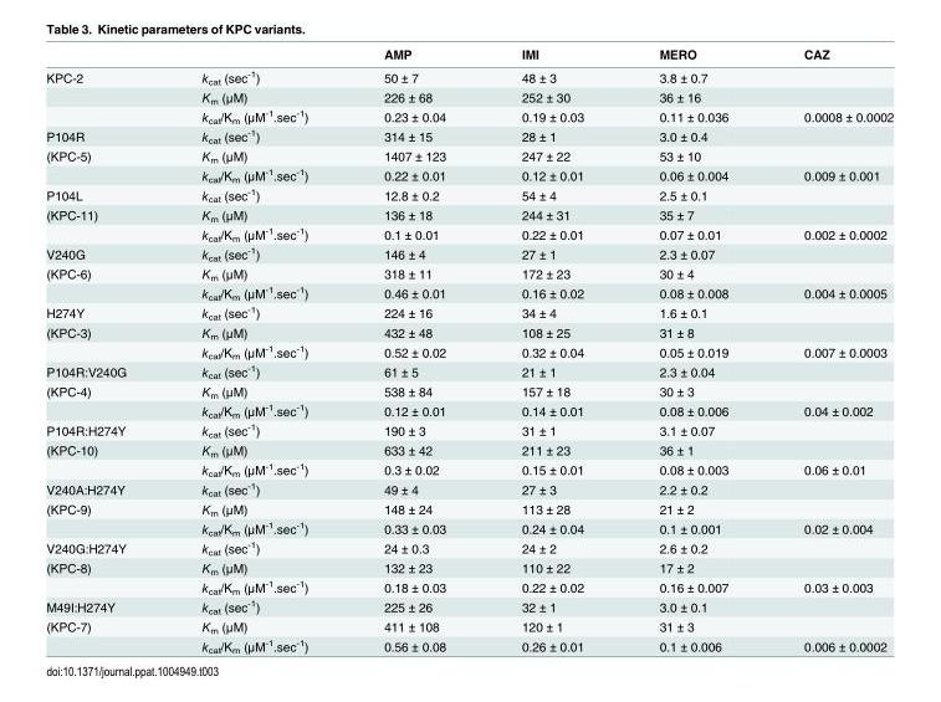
<table><thead><tr><td></td><td></td><td>AMP</td><td>IMI</td><td>MERO</td><td>CAZ</td></tr></thead><tbody><tr><td rowspan="3">KPC-2</td><td>k<sub>cat</sub> (sec<sup>-1</sup>)</td><td>50 ± 7</td><td>48 ± 3</td><td>3.8 ± 0.7</td><td></td></tr><tr><td>K<sub>m</sub> (μM)</td><td>226 ± 68</td><td>252 ± 30</td><td>36 ± 16</td><td></td></tr><tr><td>k<sub>cat</sub>/K<sub>m</sub> (μM<sup>-1</sup>.sec<sup>-1</sup>)</td><td>0.23 ± 0.04</td><td>0.19 ± 0.03</td><td>0.11 ± 0.036</td><td>0.0008 ± 0.0002</td></tr><tr><td>P104R</td><td>k<sub>cat</sub> (sec<sup>-1</sup>)</td><td>314 ± 15</td><td>28 ± 1</td><td>3.0 ± 0.4</td><td></td></tr><tr><td rowspan="2">(KPC-5)</td><td>K<sub>m</sub> (μM)</td><td>1407 ± 123</td><td>247 ± 22</td><td>53 ± 10</td><td></td></tr><tr><td>k<sub>cat</sub>/K<sub>m</sub> (μM<sup>-1</sup>.sec<sup>-1</sup>)</td><td>0.22 ± 0.01</td><td>0.12 ± 0.01</td><td>0.06 ± 0.004</td><td>0.009 ± 0.001</td></tr><tr><td>P104L</td><td>k<sub>cat</sub> (sec<sup>-1</sup>)</td><td>12.8 ± 0.2</td><td>54 ± 4</td><td>2.5 ± 0.1</td><td></td></tr><tr><td rowspan="2">(KPC-11)</td><td>K<sub>m</sub> (μM)</td><td>136 ± 18</td><td>244 ± 31</td><td>35 ± 7</td><td></td></tr><tr><td>k<sub>cat</sub>/K<sub>m</sub> (μM<sup>-1</sup>.sec<sup>-1</sup>)</td><td>0.1 ± 0.01</td><td>0.22 ± 0.01</td><td>0.07 ± 0.01</td><td>0.002 ± 0.0002</td></tr><tr><td>V240G</td><td>k<sub>cat</sub> (sec<sup>-1</sup>)</td><td>146 ± 4</td><td>27 ± 1</td><td>2.3 ± 0.07</td><td></td></tr><tr><td rowspan="2">(KPC-6)</td><td>K<sub>m</sub> (μM)</td><td>318 ± 11</td><td>172 ± 23</td><td>30 ± 4</td><td></td></tr><tr><td>k<sub>cat</sub>/K<sub>m</sub> (μM<sup>-1</sup>.sec<sup>-1</sup>)</td><td>0.46 ± 0.01</td><td>0.16 ± 0.02</td><td>0.08 ± 0.008</td><td>0.004 ± 0.0005</td></tr><tr><td>H274Y</td><td>k<sub>cat</sub> (sec<sup>-1</sup>)</td><td>224 ± 16</td><td>34 ± 4</td><td>1.6 ± 0.1</td><td></td></tr><tr><td rowspan="2">(KPC-3)</td><td>K<sub>m</sub> (μM)</td><td>432 ± 48</td><td>108 ± 25</td><td>31 ± 8</td><td></td></tr><tr><td>k<sub>cat</sub>/K<sub>m</sub> (μM<sup>-1</sup>.sec<sup>-1</sup>)</td><td>0.52 ± 0.02</td><td>0.32 ± 0.04</td><td>0.05 ± 0.019</td><td>0.007 ± 0.0003</td></tr><tr><td>P104R:V240G</td><td>k<sub>cat</sub> (sec<sup>-1</sup>)</td><td>61 ± 5</td><td>21 ± 1</td><td>2.3 ± 0.04</td><td></td></tr><tr><td rowspan="2">(KPC-4)</td><td>K<sub>m</sub> (μM)</td><td>538 ± 84</td><td>157 ± 18</td><td>30 ± 3</td><td></td></tr><tr><td>k<sub>cat</sub>/K<sub>m</sub> (μM<sup>-1</sup>.sec<sup>-1</sup>)</td><td>0.12 ± 0.01</td><td>0.14 ± 0.01</td><td>0.08 ± 0.006</td><td>0.04 ± 0.002</td></tr><tr><td>P104R:H274Y</td><td>k<sub>cat</sub> (sec<sup>-1</sup>)</td><td>190 ± 3</td><td>31 ± 1</td><td>3.1 ± 0.07</td><td></td></tr><tr><td rowspan="2">(KPC-10)</td><td>K<sub>m</sub> (μM)</td><td>633 ± 42</td><td>211 ± 23</td><td>36 ± 1</td><td></td></tr><tr><td>k<sub>cat</sub>/K<sub>m</sub> (μM<sup>-1</sup>.sec<sup>-1</sup>)</td><td>0.3 ± 0.02</td><td>0.15 ± 0.01</td><td>0.08 ± 0.003</td><td>0.06 ± 0.01</td></tr><tr><td>V240A:H274Y</td><td>k<sub>cat</sub> (sec<sup>-1</sup>)</td><td>49 ± 4</td><td>27 ± 3</td><td>2.2 ± 0.2</td><td></td></tr><tr><td rowspan="2">(KPC-9)</td><td>K<sub>m</sub> (μM)</td><td>148 ± 24</td><td>113 ± 28</td><td>21 ± 2</td><td></td></tr><tr><td>k<sub>cat</sub>/K<sub>m</sub> (μM<sup>-1</sup>.sec<sup>-1</sup>)</td><td>0.33 ± 0.03</td><td>0.24 ± 0.04</td><td>0.1 ± 0.001</td><td>0.02 ± 0.004</td></tr><tr><td>V240G:H274Y</td><td>k<sub>cat</sub> (sec<sup>-1</sup>)</td><td>24 ± 0.3</td><td>24 ± 2</td><td>2.6 ± 0.2</td><td></td></tr><tr><td rowspan="2">(KPC-8)</td><td>K<sub>m</sub> (μM)</td><td>132 ± 23</td><td>110 ± 22</td><td>17 ± 2</td><td></td></tr><tr><td>k<sub>cat</sub>/K<sub>m</sub> (μM<sup>-1</sup>.sec<sup>-1</sup>)</td><td>0.18 ± 0.03</td><td>0.22 ± 0.02</td><td>0.16 ± 0.007</td><td>0.03 ± 0.003</td></tr><tr><td>M49I:H274Y</td><td>k<sub>cat</sub> (sec<sup>-1</sup>)</td><td>225 ± 26</td><td>32 ± 1</td><td>3.0 ± 0.1</td><td></td></tr><tr><td rowspan="2">(KPC-7)</td><td>K<sub>m</sub> (μM)</td><td>411 ± 108</td><td>120 ± 1</td><td>31 ± 3</td><td></td></tr><tr><td>k<sub>cat</sub>/K<sub>m</sub> (μM<sup>-1</sup>.sec<sup>-1</sup>)</td><td>0.56 ± 0.08</td><td>0.26 ± 0.01</td><td>0.1 ± 0.006</td><td>0.006 ± 0.0002</td></tr></tbody></table>